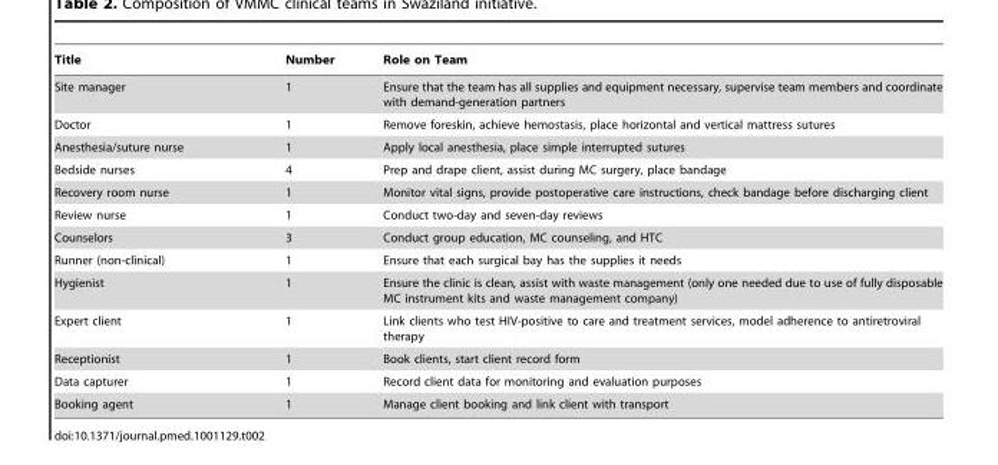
<table><thead><tr><td>Title</td><td>Number</td><td>Role on Team</td></tr></thead><tbody><tr><td>Site manager</td><td>1</td><td>Ensure that the team has all supplies and equipment necessary, supervise team members and coordinate with demand-generation partners</td></tr><tr><td>Doctor</td><td>1</td><td>Remove foreskin, achieve hemostasis, place horizontal and vertical mattress sutures</td></tr><tr><td>Anesthesia/suture nurse</td><td>1</td><td>Apply local anesthesia, place simple interrupted sutures</td></tr><tr><td>Bedside nurses</td><td>4</td><td>Prep and drape client, assist during MC surgery, place bandage</td></tr><tr><td>Recovery room nurse</td><td>1</td><td>Monitor vital signs, provide postoperative care instructions, check bandage before discharging client</td></tr><tr><td>Review nurse</td><td>1</td><td>Conduct two-day and seven-day reviews</td></tr><tr><td>Counselors</td><td>3</td><td>Conduct group education, MC counseling, and HTC</td></tr><tr><td>Runner (non-clinical)</td><td>1</td><td>Ensure that each surgical bay has the supplies it needs</td></tr><tr><td>Hygienist</td><td>1</td><td>Ensure the clinic is clean, assist with waste management (only one needed due to use of fully disposable MC instrument kits and waste management company)</td></tr><tr><td>Expert client</td><td>1</td><td>Link clients who test HIV-positive to care and treatment services, model adherence to antiretroviral therapy</td></tr><tr><td>Receptionist</td><td>1</td><td>Book clients, start client record form</td></tr><tr><td>Data capturer</td><td>1</td><td>Record client data for monitoring and evaluation purposes</td></tr><tr><td>Booking agent</td><td>1</td><td>Manage client booking and link client with transport</td></tr></tbody></table>